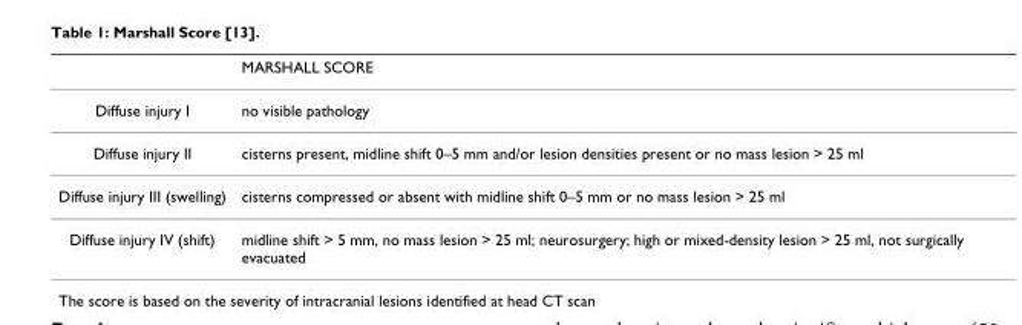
<table><thead><tr><td></td><td>MARSHALL SCORE</td></tr></thead><tbody><tr><td>Diffuse injury I</td><td>no visible pathology</td></tr><tr><td>Diffuse injury II</td><td>cisterns present, midline shift 0–5 mm and/or lesion densities present or no mass lesion &gt; 25 ml</td></tr><tr><td>Diffuse injury III (swelling)</td><td>cisterns compressed or absent with midline shift 0–5 mm or no mass lesion &gt; 25 ml</td></tr><tr><td>Diffuse injury IV (shift)</td><td>midline shift &gt; 5 mm, no mass lesion &gt; 25 ml; neurosurgery; high or mixed-density lesion &gt; 25 ml, not surgically evacuated</td></tr></tbody></table>